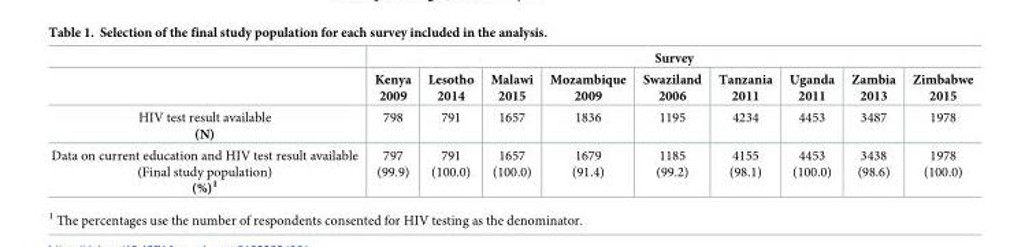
<table><thead><tr><td rowspan="2"></td><td colspan="9">Survey</td></tr><tr><td>Kenya 2009</td><td>Lesotho 2014</td><td>Malawi 2015</td><td>Mozambique 2009</td><td>Swaziland 2006</td><td>Tanzania 2011</td><td>Uganda 2011</td><td>Zambia 2013</td><td>Zimbabwe 2015</td></tr></thead><tbody><tr><td>HIV test result available (N)</td><td>798</td><td>791</td><td>1657</td><td>1836</td><td>1195</td><td>4234</td><td>4453</td><td>3487</td><td>1978</td></tr><tr><td>Data on current education and HIV test result available (Final study population) (%)<sup>1</sup></td><td>797 (99.9)</td><td>791 (100.0)</td><td>1657 (100.0)</td><td>1679 (91.4)</td><td>1185 (99.2)</td><td>4155 (98.1)</td><td>4453 (100.0)</td><td>3438 (98.6)</td><td>1978 (100.0)</td></tr></tbody></table>